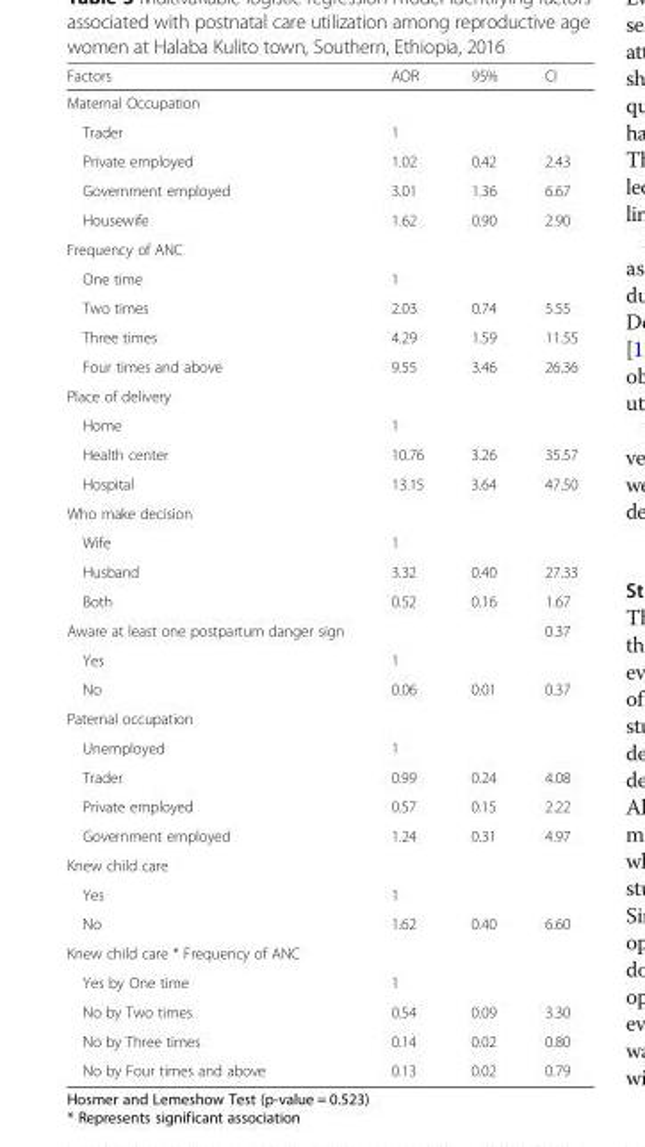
<table><thead><tr><td>Factors</td><td>AOR</td><td>95%</td><td>CI</td></tr></thead><tbody><tr><td colspan="4">Maternal Occupation</td></tr><tr><td>Trader</td><td>1</td><td></td><td></td></tr><tr><td>Private employed</td><td>1.02</td><td>0.42</td><td>2.43</td></tr><tr><td>Government employed</td><td>3.01</td><td>1.36</td><td>6.67</td></tr><tr><td>Housewife</td><td>1.62</td><td>0.90</td><td>2.90</td></tr><tr><td colspan="4">Frequency of ANC</td></tr><tr><td>One time</td><td>1</td><td></td><td></td></tr><tr><td>Two times</td><td>2.03</td><td>0.74</td><td>5.55</td></tr><tr><td>Three times</td><td>4.29</td><td>1.59</td><td>11.55</td></tr><tr><td>Four times and above</td><td>9.55</td><td>3.46</td><td>26.36</td></tr><tr><td colspan="4">Place of delivery</td></tr><tr><td>Home</td><td>1</td><td></td><td></td></tr><tr><td>Health center</td><td>10.76</td><td>3.26</td><td>35.57</td></tr><tr><td>Hospital</td><td>13.15</td><td>3.64</td><td>47.50</td></tr><tr><td colspan="4">Who make decision</td></tr><tr><td>Wife</td><td>1</td><td></td><td></td></tr><tr><td>Husband</td><td>3.32</td><td>0.40</td><td>27.33</td></tr><tr><td>Both</td><td>0.52</td><td>0.16</td><td>1.67</td></tr><tr><td>Aware at least one postpartum danger sign</td><td></td><td></td><td>0.37</td></tr><tr><td>Yes</td><td>1</td><td></td><td></td></tr><tr><td>No</td><td>0.06</td><td>0.01</td><td>0.37</td></tr><tr><td colspan="4">Paternal occupation</td></tr><tr><td>Unemployed</td><td>1</td><td></td><td></td></tr><tr><td>Trader</td><td>0.99</td><td>0.24</td><td>4.08</td></tr><tr><td>Private employed</td><td>0.57</td><td>0.15</td><td>2.22</td></tr><tr><td>Government employed</td><td>1.24</td><td>0.31</td><td>4.97</td></tr><tr><td colspan="4">Knew child care</td></tr><tr><td>Yes</td><td>1</td><td></td><td></td></tr><tr><td>No</td><td>1.62</td><td>0.40</td><td>6.60</td></tr><tr><td colspan="4">Knew child care * Frequency of ANC</td></tr><tr><td>Yes by One time</td><td>1</td><td></td><td></td></tr><tr><td>No by Two times</td><td>0.54</td><td>0.09</td><td>3.30</td></tr><tr><td>No by Three times</td><td>0.14</td><td>0.02</td><td>0.80</td></tr><tr><td>No by Four times and above</td><td>0.13</td><td>0.02</td><td>0.79</td></tr></tbody></table>